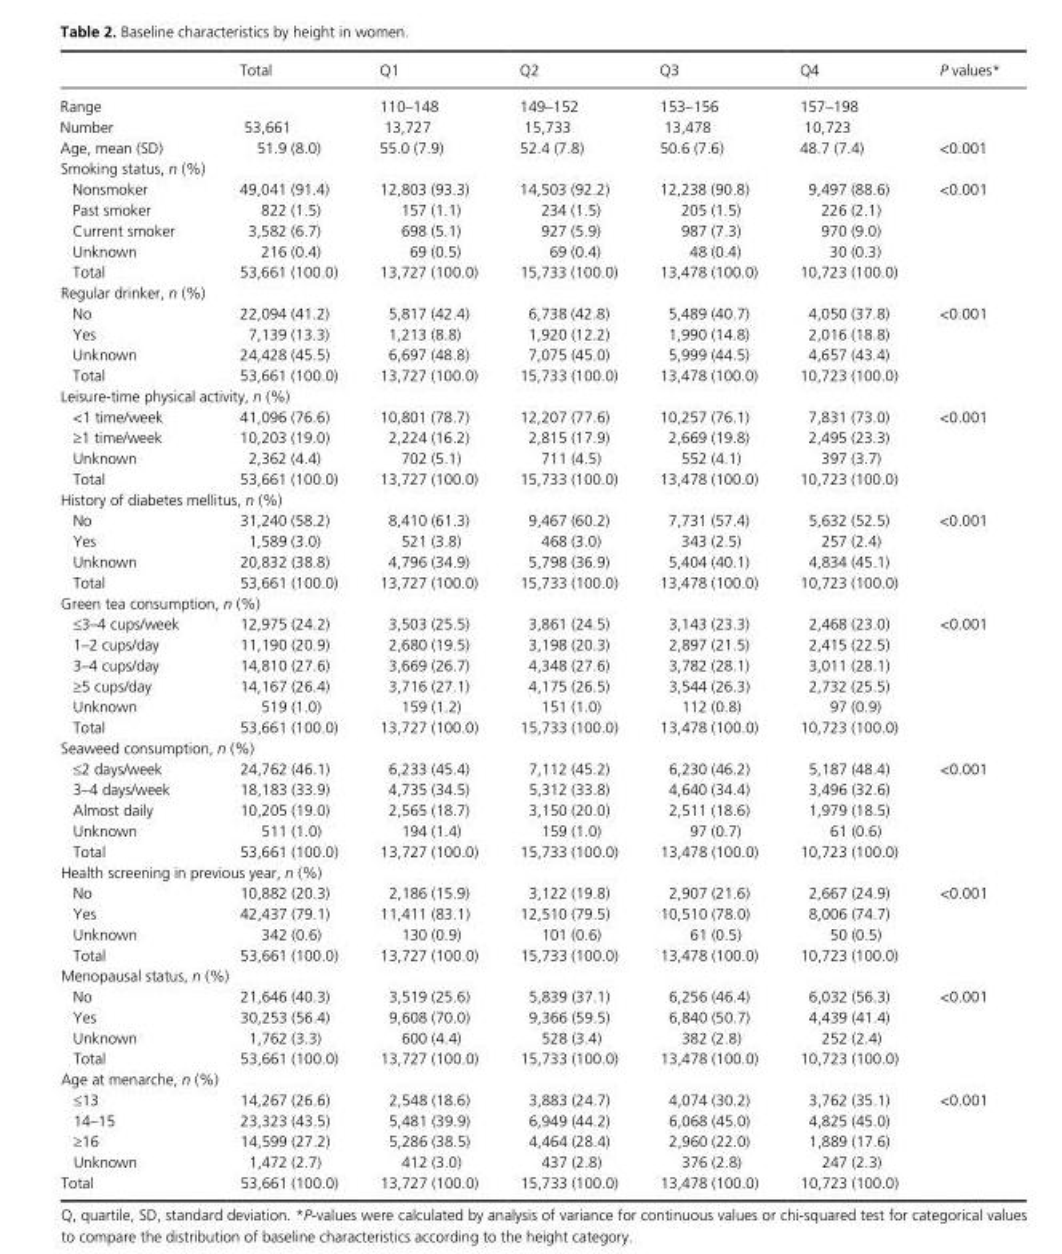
<table><thead><tr><td></td><td>Total</td><td>Q1</td><td>Q2</td><td>Q3</td><td>Q4</td><td>P values*</td></tr></thead><tbody><tr><td>Range</td><td></td><td>110–148</td><td>149–152</td><td>153–156</td><td>157–198</td><td></td></tr><tr><td>Number</td><td>53,661</td><td>13,727</td><td>15,733</td><td>13,478</td><td>10,723</td><td></td></tr><tr><td>Age, mean (SD)</td><td>51.9 (8.0)</td><td>55.0 (7.9)</td><td>52.4 (7.8)</td><td>50.6 (7.6)</td><td>48.7 (7.4)</td><td>&lt;0.001</td></tr><tr><td colspan="7">Smoking status, n (%)</td></tr><tr><td>Nonsmoker</td><td>49,041 (91.4)</td><td>12,803 (93.3)</td><td>14,503 (92.2)</td><td>12,238 (90.8)</td><td>9,497 (88.6)</td><td rowspan="5">&lt;0.001</td></tr><tr><td>Past smoker</td><td>822 (1.5)</td><td>157 (1.1)</td><td>234 (1.5)</td><td>205 (1.5)</td><td>226 (2.1)</td></tr><tr><td>Current smoker</td><td>3,582 (6.7)</td><td>698 (5.1)</td><td>927 (5.9)</td><td>987 (7.3)</td><td>970 (9.0)</td></tr><tr><td>Unknown</td><td>216 (0.4)</td><td>69 (0.5)</td><td>69 (0.4)</td><td>48 (0.4)</td><td>30 (0.3)</td></tr><tr><td>Total</td><td>53,661 (100.0)</td><td>13,727 (100.0)</td><td>15,733 (100.0)</td><td>13,478 (100.0)</td><td>10,723 (100.0)</td></tr><tr><td colspan="7">Regular drinker, n (%)</td></tr><tr><td>No</td><td>22,094 (41.2)</td><td>5,817 (42.4)</td><td>6,738 (42.8)</td><td>5,489 (40.7)</td><td>4,050 (37.8)</td><td rowspan="4">&lt;0.001</td></tr><tr><td>Yes</td><td>7,139 (13.3)</td><td>1,213 (8.8)</td><td>1,920 (12.2)</td><td>1,990 (14.8)</td><td>2,016 (18.8)</td></tr><tr><td>Unknown</td><td>24,428 (45.5)</td><td>6,697 (48.8)</td><td>7,075 (45.0)</td><td>5,999 (44.5)</td><td>4,657 (43.4)</td></tr><tr><td>Total</td><td>53,661 (100.0)</td><td>13,727 (100.0)</td><td>15,733 (100.0)</td><td>13,478 (100.0)</td><td>10,723 (100.0)</td></tr><tr><td colspan="7">Leisure- time physical activity, n (%)</td></tr><tr><td>&lt;1 time/week</td><td>41,096 (76.6)</td><td>10,801 (78.7)</td><td>12,207 (77.6)</td><td>10,257 (76.1)</td><td>7,831 (73.0)</td><td rowspan="4">&lt;0.001</td></tr><tr><td>≥1 time/week</td><td>10,203 (19.0)</td><td>2,224 (16.2)</td><td>2,815 (17.9)</td><td>2,669 (19.8)</td><td>2,495 (23.3)</td></tr><tr><td>Unknown</td><td>2,362 (4.4)</td><td>702 (5.1)</td><td>711 (4.5)</td><td>552 (4.1)</td><td>397 (3.7)</td></tr><tr><td>Total</td><td>53,661 (100.0)</td><td>13,727 (100.0)</td><td>15,733 (100.0)</td><td>13,478 (100.0)</td><td>10,723 (100.0)</td></tr><tr><td colspan="7">History of diabetes mellitus, n (%)</td></tr><tr><td>No</td><td>31,240 (58.2)</td><td>8,410 (61.3)</td><td>9,467 (60.2)</td><td>7,731 (57.4)</td><td>5,632 (52.5)</td><td rowspan="4">&lt;0.001</td></tr><tr><td>Yes</td><td>1,589 (3.0)</td><td>521 (3.8)</td><td>468 (3.0)</td><td>343 (2.5)</td><td>257 (2.4)</td></tr><tr><td>Unknown</td><td>20,832 (38.8)</td><td>4,796 (34.9)</td><td>5,798 (36.9)</td><td>5,404 (40.1)</td><td>4,834 (45.1)</td></tr><tr><td>Total</td><td>53,661 (100.0)</td><td>13,727 (100.0)</td><td>15,733 (100.0)</td><td>13,478 (100.0)</td><td>10,723 (100.0)</td></tr><tr><td colspan="7">Green tea consumption, n (%)</td></tr><tr><td>≤3–4 cups/week</td><td>12,975 (24.2)</td><td>3,503 (25.5)</td><td>3,861 (24.5)</td><td>3,143 (23.3)</td><td>2,468 (23.0)</td><td rowspan="6">&lt;0.001</td></tr><tr><td>1–2 cups/day</td><td>11,190 (20.9)</td><td>2,680 (19.5)</td><td>3,198 (20.3)</td><td>2,897 (21.5)</td><td>2,415 (22.5)</td></tr><tr><td>3–4 cups/day</td><td>14,810 (27.6)</td><td>3,669 (26.7)</td><td>4,348 (27.6)</td><td>3,782 (28.1)</td><td>3,011 (28.1)</td></tr><tr><td>≥5 cups/day</td><td>14,167 (26.4)</td><td>3,716 (27.1)</td><td>4,175 (26.5)</td><td>3,544 (26.3)</td><td>2,732 (25.5)</td></tr><tr><td>Unknown</td><td>519 (1.0)</td><td>159 (1.2)</td><td>151 (1.0)</td><td>112 (0.8)</td><td>97 (0.9)</td></tr><tr><td>Total</td><td>53,661 (100.0)</td><td>13,727 (100.0)</td><td>15,733 (100.0)</td><td>13,478 (100.0)</td><td>10,723 (100.0)</td></tr><tr><td colspan="7">Seaweed consumption, n (%)</td></tr><tr><td>≤2 days/week</td><td>24,762 (46.1)</td><td>6,233 (45.4)</td><td>7,112 (45.2)</td><td>6,230 (46.2)</td><td>5,187 (48.4)</td><td rowspan="5">&lt;0.001</td></tr><tr><td>3–4 days/week</td><td>18,183 (33.9)</td><td>4,735 (34.5)</td><td>5,312 (33.8)</td><td>4,640 (34.4)</td><td>3,496 (32.6)</td></tr><tr><td>Almost daily</td><td>10,205 (19.0)</td><td>2,565 (18.7)</td><td>3,150 (20.0)</td><td>2,511 (18.6)</td><td>1,979 (18.5)</td></tr><tr><td>Unknown</td><td>511 (1.0)</td><td>194 (1.4)</td><td>159 (1.0)</td><td>97 (0.7)</td><td>61 (0.6)</td></tr><tr><td>Total</td><td>53,661 (100.0)</td><td>13,727 (100.0)</td><td>15,733 (100.0)</td><td>13,478 (100.0)</td><td>10,723 (100.0)</td></tr><tr><td colspan="7">Health screening in previous year, n (%)</td></tr><tr><td>No</td><td>10,882 (20.3)</td><td>2,186 (15.9)</td><td>3,122 (19.8)</td><td>2,907 (21.6)</td><td>2,667 (24.9)</td><td rowspan="4">&lt;0.001</td></tr><tr><td>Yes</td><td>42,437 (79.1)</td><td>11,411 (83.1)</td><td>12,510 (79.5)</td><td>10,510 (78.0)</td><td>8,006 (74.7)</td></tr><tr><td>Unknown</td><td>342 (0.6)</td><td>130 (0.9)</td><td>101 (0.6)</td><td>61 (0.5)</td><td>50 (0.5)</td></tr><tr><td>Total</td><td>53,661 (100.0)</td><td>13,727 (100.0)</td><td>15,733 (100.0)</td><td>13,478 (100.0)</td><td>10,723 (100.0)</td></tr><tr><td colspan="7">Menopausal status, n (%)</td></tr><tr><td>No</td><td>21,646 (40.3)</td><td>3,519 (25.6)</td><td>5,839 (37.1)</td><td>6,256 (46.4)</td><td>6,032 (56.3)</td><td rowspan="4">&lt;0.001</td></tr><tr><td>Yes</td><td>30,253 (56.4)</td><td>9,608 (70.0)</td><td>9,366 (59.5)</td><td>6,840 (50.7)</td><td>4,439 (41.4)</td></tr><tr><td>Unknown</td><td>1,762 (3.3)</td><td>600 (4.4)</td><td>528 (3.4)</td><td>382 (2.8)</td><td>252 (2.4)</td></tr><tr><td>Total</td><td>53,661 (100.0)</td><td>13,727 (100.0)</td><td>15,733 (100.0)</td><td>13,478 (100.0)</td><td>10,723 (100.0)</td></tr><tr><td colspan="7">Age at menarche, n (%)</td></tr><tr><td>≤13</td><td>14,267 (26.6)</td><td>2,548 (18.6)</td><td>3,883 (24.7)</td><td>4,074 (30.2)</td><td>3,762 (35.1)</td><td rowspan="4">&lt;0.001</td></tr><tr><td>14–15</td><td>23,323 (43.5)</td><td>5,481 (39.9)</td><td>6,949 (44.2)</td><td>6,068 (45.0)</td><td>4,825 (45.0)</td></tr><tr><td>≥16</td><td>14,599 (27.2)</td><td>5,286 (38.5)</td><td>4,464 (28.4)</td><td>2,960 (22.0)</td><td>1,889 (17.6)</td></tr><tr><td>Unknown</td><td>1,472 (2.7)</td><td>412 (3.0)</td><td>437 (2.8)</td><td>376 (2.8)</td><td>247 (2.3)</td></tr><tr><td>Total</td><td>53,661 (100.0)</td><td>13,727 (100.0)</td><td>15,733 (100.0)</td><td>13,478 (100.0)</td><td>10,723 (100.0)</td><td></td></tr></tbody></table>